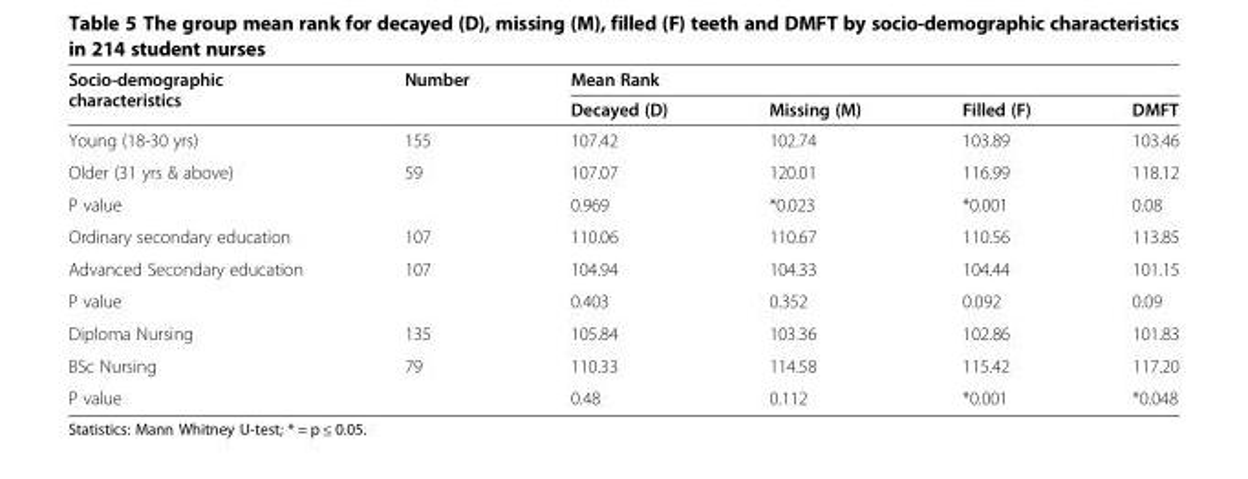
<table><thead><tr><td rowspan="2">Socio-demographic characteristics</td><td rowspan="2">Number</td><td colspan="4">Mean Rank</td></tr><tr><td>Decayed (D)</td><td>Missing (M)</td><td>Filled (F)</td><td>DMFT</td></tr></thead><tbody><tr><td>Young (18-30 yrs)</td><td>155</td><td>107.42</td><td>102.74</td><td>103.89</td><td>103.46</td></tr><tr><td>Older (31 yrs &amp; above)</td><td>59</td><td>107.07</td><td>120.01</td><td>116.99</td><td>118.12</td></tr><tr><td>P value</td><td></td><td>0.969</td><td>*0.023</td><td>*0.001</td><td>0.08</td></tr><tr><td>Ordinary secondary education</td><td>107</td><td>110.06</td><td>110.67</td><td>110.56</td><td>113.85</td></tr><tr><td>Advanced Secondary education</td><td>107</td><td>104.94</td><td>104.33</td><td>104.44</td><td>101.15</td></tr><tr><td>P value</td><td></td><td>0.403</td><td>0.352</td><td>0.092</td><td>0.09</td></tr><tr><td>Diploma Nursing</td><td>135</td><td>105.84</td><td>103.36</td><td>102.86</td><td>101.83</td></tr><tr><td>BSc Nursing</td><td>79</td><td>110.33</td><td>114.58</td><td>115.42</td><td>117.20</td></tr><tr><td>P value</td><td></td><td>0.48</td><td>0.112</td><td>*0.001</td><td>*0.048</td></tr></tbody></table>